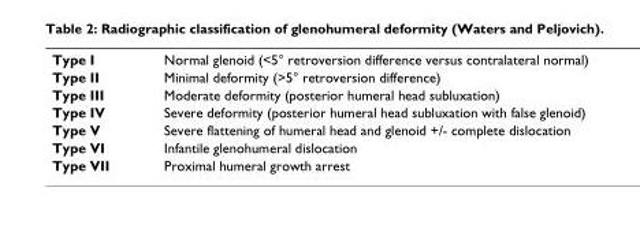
<table><tbody><tr><td>Type I</td><td>Normal glenoid (&lt;5° retroversion difference versus contralateral normal)</td></tr><tr><td>Type II</td><td>Minimal deformity (&gt;5° retroversion difference)</td></tr><tr><td>Type III</td><td>Moderate deformity (posterior humeral head subluxation)</td></tr><tr><td>Type IV</td><td>Severe deformity (posterior humeral head subluxation with false glenoid)</td></tr><tr><td>Type V</td><td>Severe flattening of humeral head and glenoid +/- complete dislocation</td></tr><tr><td>Type VI</td><td>Infantile glenohumeral dislocation</td></tr><tr><td>Type VII</td><td>Proximal humeral growth arrest</td></tr></tbody></table>